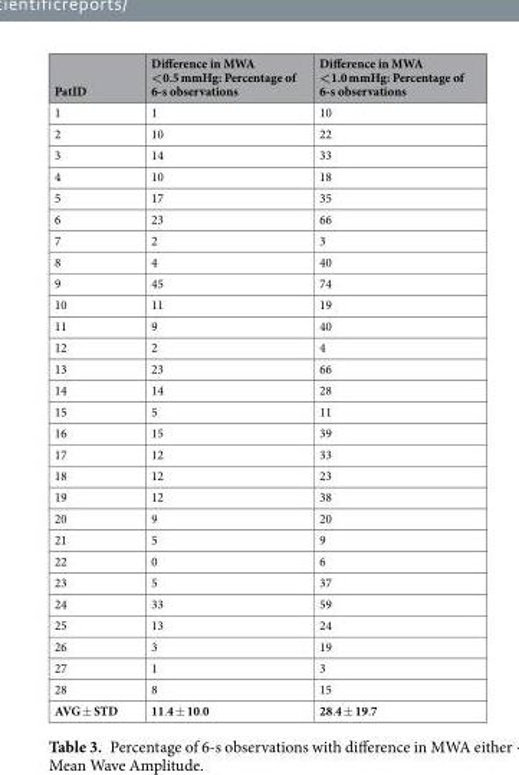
<table><thead><tr><td>PatID</td><td>Difference in MWA &lt;0.5 mmHg: Percentage of 6-s observations</td><td>Difference in MWA &lt;1.0 mmHg: Percentage of 6-s observations</td></tr></thead><tbody><tr><td>1</td><td>1</td><td>10</td></tr><tr><td>2</td><td>10</td><td>22</td></tr><tr><td>3</td><td>14</td><td>33</td></tr><tr><td>4</td><td>10</td><td>18</td></tr><tr><td>5</td><td>17</td><td>35</td></tr><tr><td>6</td><td>23</td><td>66</td></tr><tr><td>7</td><td>2</td><td>3</td></tr><tr><td>8</td><td>4</td><td>40</td></tr><tr><td>9</td><td>45</td><td>74</td></tr><tr><td>10</td><td>11</td><td>19</td></tr><tr><td>11</td><td>9</td><td>40</td></tr><tr><td>12</td><td>2</td><td>4</td></tr><tr><td>13</td><td>23</td><td>66</td></tr><tr><td>14</td><td>14</td><td>28</td></tr><tr><td>15</td><td>5</td><td>11</td></tr><tr><td>16</td><td>15</td><td>39</td></tr><tr><td>17</td><td>12</td><td>33</td></tr><tr><td>18</td><td>12</td><td>23</td></tr><tr><td>19</td><td>12</td><td>38</td></tr><tr><td>20</td><td>9</td><td>20</td></tr><tr><td>21</td><td>5</td><td>9</td></tr><tr><td>22</td><td>0</td><td>6</td></tr><tr><td>23</td><td>5</td><td>37</td></tr><tr><td>24</td><td>33</td><td>59</td></tr><tr><td>25</td><td>13</td><td>24</td></tr><tr><td>26</td><td>3</td><td>19</td></tr><tr><td>27</td><td>1</td><td>3</td></tr><tr><td>28</td><td>8</td><td>15</td></tr><tr><td>AVG ± STD</td><td>11.4 ± 10.0</td><td>28.4 ± 19.7</td></tr></tbody></table>